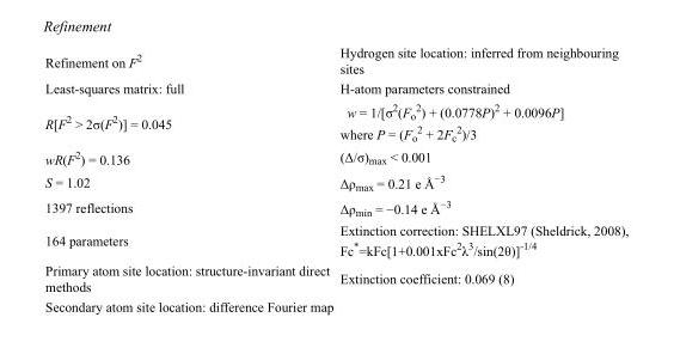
<table><tbody><tr><td>Refinement on F<sup>2</sup></td><td>Hydrogen site location: inferred from neighbouring sites</td></tr><tr><td>Least-squares matrix: full</td><td>H-atom parameters constrained</td></tr><tr><td>R[F<sup>2</sup> &gt; 2σ(F<sup>2</sup>)] = 0.045</td><td>w = 1/[σ<sup>2</sup>(F<sub>o</sub> <sup>2</sup>) + (0.0778P)<sup>2</sup> + 0.0096P] where P = (F<sub>o</sub> <sup>2</sup> + 2F<sub>c</sub> <sup>2</sup>)/3</td></tr><tr><td>wR(F<sup>2</sup>) = 0.136</td><td>(Δ/σ)<sub>max</sub> &lt; 0.001</td></tr><tr><td>S = 1.02</td><td>Δρ<sub>max</sub> = 0.21 e Å<sup>−3</sup></td></tr><tr><td>1397 reflections</td><td>Δρ<sub>min</sub> = −0.14 e Å<sup>−3</sup></td></tr><tr><td>164 parameters</td><td>Extinction correction: SHELXL97 (Sheldrick, 2008), Fc*=kFc[1+0.001xFc<sup>2</sup>λ<sup>3</sup>/sin(2θ)]<sup>-1/4</sup></td></tr><tr><td>Primary atom site location: structure-invariant direct methods</td><td>Extinction coefficient: 0.069 (8)</td></tr><tr><td>Secondary atom site location: difference Fourier map</td><td></td></tr></tbody></table>